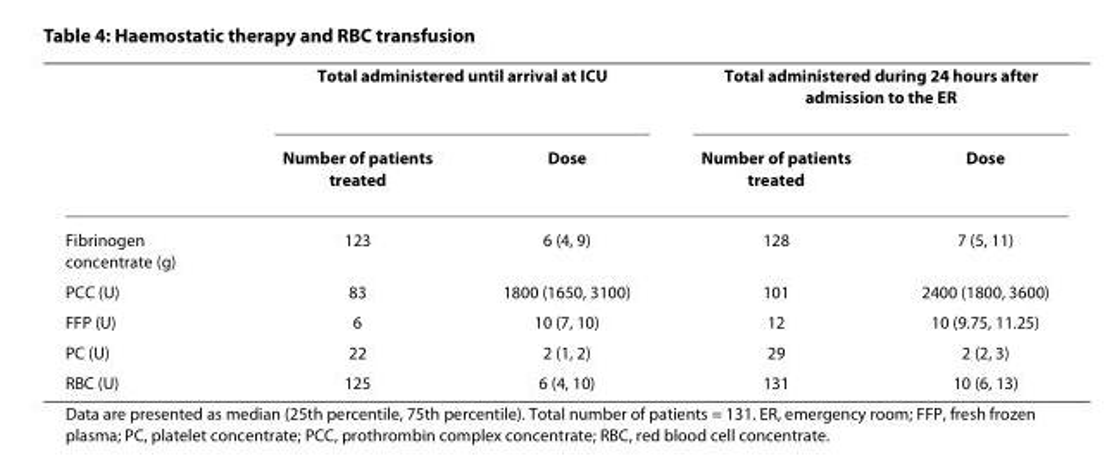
<table><thead><tr><td rowspan="2"></td><td colspan="2">Total administered until arrival at ICU</td><td colspan="2">Total administered during 24 hours after admission to the ER</td></tr><tr><td>Number of patients treated</td><td>Dose</td><td>Number of patients treated</td><td>Dose</td></tr></thead><tbody><tr><td>Fibrinogen concentrate (g)</td><td>123</td><td>6 (4, 9)</td><td>128</td><td>7 (5, 11)</td></tr><tr><td>PCC (U)</td><td>83</td><td>1800 (1650, 3100)</td><td>101</td><td>2400 (1800, 3600)</td></tr><tr><td>FFP (U)</td><td>6</td><td>10 (7, 10)</td><td>12</td><td>10 (9.75, 11.25)</td></tr><tr><td>PC (U)</td><td>22</td><td>2 (1, 2)</td><td>29</td><td>2 (2, 3)</td></tr><tr><td>RBC (U)</td><td>125</td><td>6 (4, 10)</td><td>131</td><td>10 (6, 13)</td></tr></tbody></table>